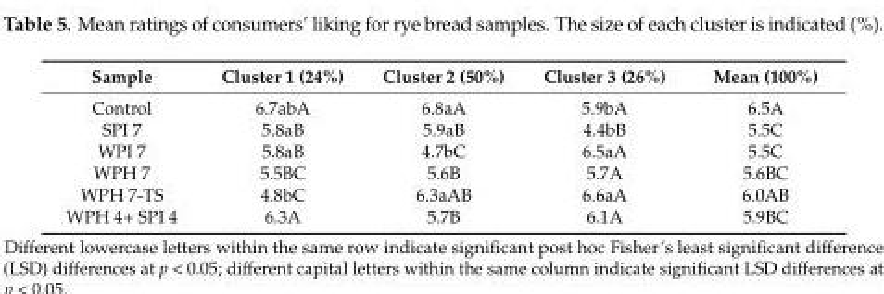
<table><thead><tr><td>Sample</td><td>Cluster 1 (24%)</td><td>Cluster 2 (50%)</td><td>Cluster 3 (26%)</td><td>Mean (100%)</td></tr></thead><tbody><tr><td>Control</td><td>6.7abA</td><td>6.8aA</td><td>5.9bA</td><td>6.5A</td></tr><tr><td>SPI 7</td><td>5.8aB</td><td>5.9aB</td><td>4.4bB</td><td>5.5C</td></tr><tr><td>WPI 7</td><td>5.8aB</td><td>4.7bC</td><td>6.5aA</td><td>5.5C</td></tr><tr><td>WPH 7</td><td>5.5BC</td><td>5.6B</td><td>5.7A</td><td>5.6BC</td></tr><tr><td>WPH 7-TS</td><td>4.8bC</td><td>6.3aAB</td><td>6.6aA</td><td>6.0AB</td></tr><tr><td>WPH 4+ SPI 4</td><td>6.3A</td><td>5.7B</td><td>6.1A</td><td>5.9BC</td></tr></tbody></table>